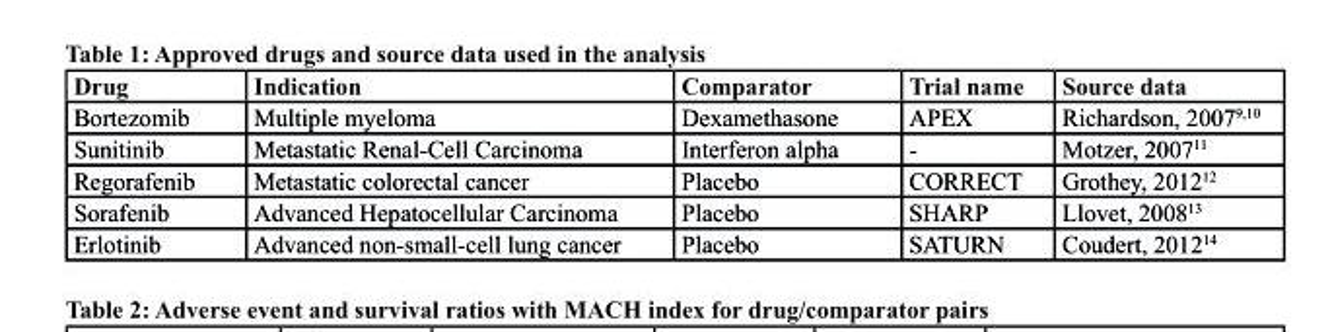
<table><thead><tr><td>drug</td><td>Indication</td><td>comparator</td><td>trial name</td><td>source data</td></tr></thead><tbody><tr><td>Bortezomib</td><td>Multiple myeloma</td><td>Dexamethasone</td><td>APEX</td><td>Richardson, 2007<sup>9,10</sup></td></tr><tr><td>Sunitinib</td><td>Metastatic Renal-Cell Carcinoma</td><td>Interferon alpha</td><td>-</td><td>Motzer, 2007<sup>11</sup></td></tr><tr><td>Regorafenib</td><td>Metastatic colorectal cancer</td><td>Placebo</td><td>CORRECT</td><td>Grothey, 2012<sup>12</sup></td></tr><tr><td>Sorafenib</td><td>Advanced Hepatocellular Carcinoma</td><td>Placebo</td><td>SHARP</td><td>Llovet, 2008<sup>13</sup></td></tr><tr><td>Erlotinib</td><td>Advanced non-small-cell lung cancer</td><td>Placebo</td><td>SATURN</td><td>Coudert, 2012<sup>14</sup></td></tr></tbody></table>